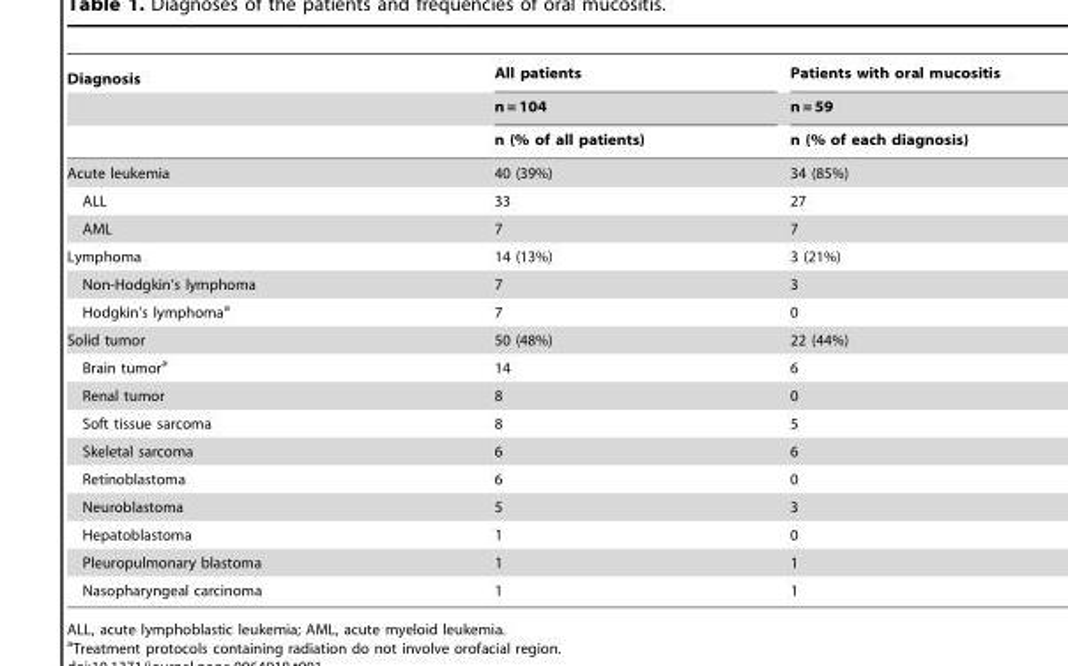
<table><thead><tr><td rowspan="3">Diagnosis</td><td rowspan="3">All patients n = 104 n (% of all patients)</td><td rowspan="3">Patients with oral mucositis n = 59 n (% of each diagnosis)</td></tr><tr></tr><tr></tr></thead><tbody><tr><td>Acute leukemia</td><td>40 (39%)</td><td>34 (85%)</td></tr><tr><td>ALL</td><td>33</td><td>27</td></tr><tr><td>AML</td><td>7</td><td>7</td></tr><tr><td>Lymphoma</td><td>14 (13%)</td><td>3 (21%)</td></tr><tr><td>Non-Hodgkin’s lymphoma</td><td>7</td><td>3</td></tr><tr><td>Hodgkin’s lymphoma<sup>a</sup></td><td>7</td><td>0</td></tr><tr><td>Solid tumor</td><td>50 (48%)</td><td>22 (44%)</td></tr><tr><td>Brain tumor<sup>a</sup></td><td>14</td><td>6</td></tr><tr><td>Renal tumor</td><td>8</td><td>0</td></tr><tr><td>Soft tissue sarcoma</td><td>8</td><td>5</td></tr><tr><td>Skeletal sarcoma</td><td>6</td><td>6</td></tr><tr><td>Retinoblastoma</td><td>6</td><td>0</td></tr><tr><td>Neuroblastoma</td><td>5</td><td>3</td></tr><tr><td>Hepatoblastoma</td><td>1</td><td>0</td></tr><tr><td>Pleuropulmonary blastoma</td><td>1</td><td>1</td></tr><tr><td>Nasopharyngeal carcinoma</td><td>1</td><td>1</td></tr></tbody></table>